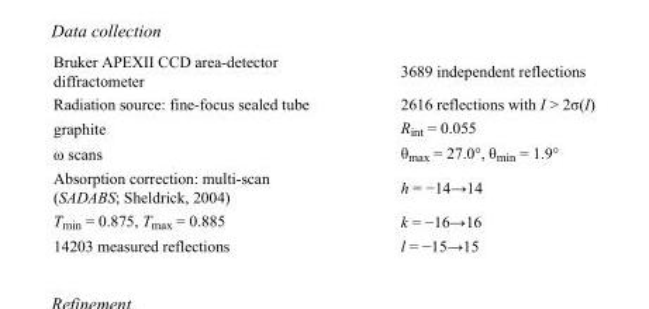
<table><tbody><tr><td>Bruker APEXII CCD area-detector diffractometer</td><td>3689 independent reflections</td></tr><tr><td>Radiation source: fine-focus sealed tube</td><td>2616 reflections with I &gt; 2σ(I)</td></tr><tr><td>graphite</td><td>R<sub>int</sub> = 0.055</td></tr><tr><td>ω scans</td><td>θ<sub>max</sub> = 27.0°, θ<sub>min</sub> = 1.9°</td></tr><tr><td>Absorption correction: multi-scan (SADABS; Sheldrick, 2004)</td><td>h = −14→14</td></tr><tr><td>T<sub>min</sub> = 0.875, T<sub>max</sub> = 0.885</td><td>k = −16→16</td></tr><tr><td>14203 measured reflections</td><td>l = −15→15</td></tr></tbody></table>